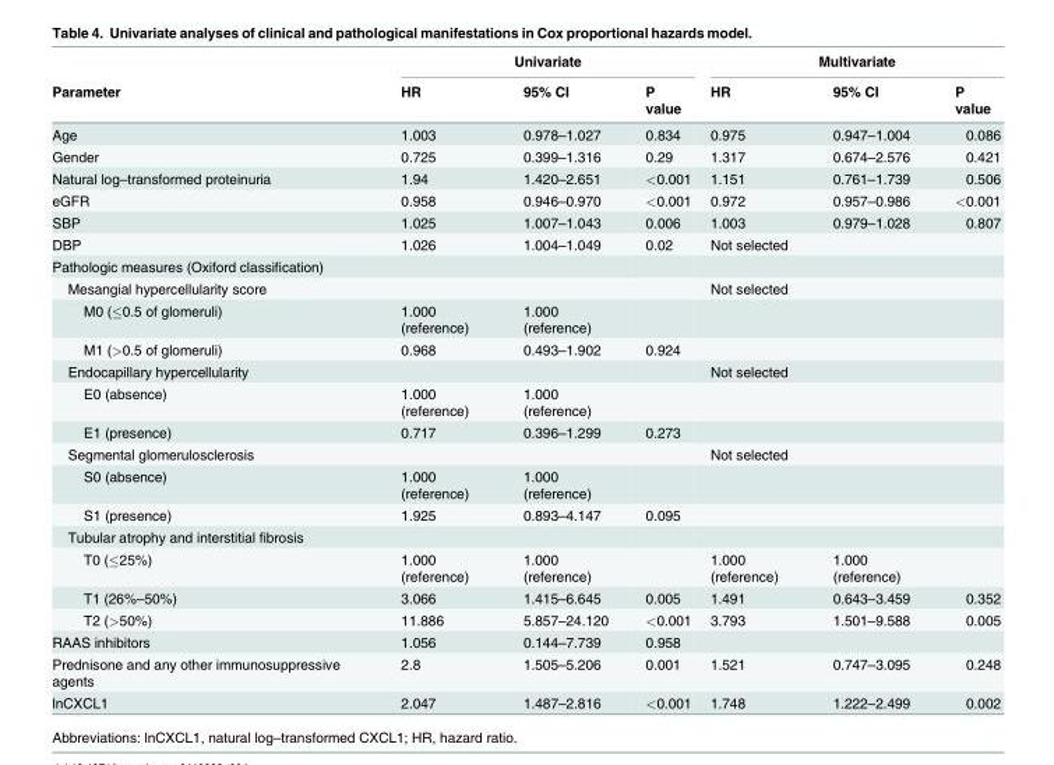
<table><thead><tr><td rowspan="2">Parameter</td><td colspan="3">Univariate</td><td colspan="3">Multivariate</td></tr><tr><td>HR</td><td>95% CI</td><td>P value</td><td>HR</td><td>95% CI</td><td>P value</td></tr></thead><tbody><tr><td>Age</td><td>1.003</td><td>0.978–1.027</td><td>0.834</td><td>0.975</td><td>0.947–1.004</td><td>0.086</td></tr><tr><td>Gender</td><td>0.725</td><td>0.399–1.316</td><td>0.29</td><td>1.317</td><td>0.674–2.576</td><td>0.421</td></tr><tr><td>Natural log–transformed proteinuria</td><td>1.94</td><td>1.420–2.651</td><td>&lt;0.001</td><td>1.151</td><td>0.761–1.739</td><td>0.506</td></tr><tr><td>eGFR</td><td>0.958</td><td>0.946–0.970</td><td>&lt;0.001</td><td>0.972</td><td>0.957–0.986</td><td>&lt;0.001</td></tr><tr><td>SBP</td><td>1.025</td><td>1.007–1.043</td><td>0.006</td><td>1.003</td><td>0.979–1.028</td><td>0.807</td></tr><tr><td>DBP</td><td>1.026</td><td>1.004–1.049</td><td>0.02</td><td>Not selected</td><td></td><td></td></tr><tr><td colspan="7">Pathologic measures (Oxiford classification)</td></tr><tr><td>Mesangial hypercellularity score</td><td></td><td></td><td></td><td>Not selected</td><td></td><td></td></tr><tr><td>M0 (≤0.5 of glomeruli)</td><td>1.000 (reference)</td><td>1.000 (reference)</td><td></td><td></td><td></td><td></td></tr><tr><td>M1 (&gt;0.5 of glomeruli)</td><td>0.968</td><td>0.493–1.902</td><td>0.924</td><td></td><td></td><td></td></tr><tr><td>Endocapillary hypercellularity</td><td></td><td></td><td></td><td>Not selected</td><td></td><td></td></tr><tr><td>E0 (absence)</td><td>1.000 (reference)</td><td>1.000 (reference)</td><td></td><td></td><td></td><td></td></tr><tr><td>E1 (presence)</td><td>0.717</td><td>0.396–1.299</td><td>0.273</td><td></td><td></td><td></td></tr><tr><td>Segmental glomerulosclerosis</td><td></td><td></td><td></td><td>Not selected</td><td></td><td></td></tr><tr><td>S0 (absence)</td><td>1.000 (reference)</td><td>1.000 (reference)</td><td></td><td></td><td></td><td></td></tr><tr><td>S1 (presence)</td><td>1.925</td><td>0.893–4.147</td><td>0.095</td><td></td><td></td><td></td></tr><tr><td colspan="7">Tubular atrophy and interstitial fibrosis</td></tr><tr><td>T0 (≤25%)</td><td>1.000 (reference)</td><td>1.000 (reference)</td><td></td><td>1.000 (reference)</td><td>1.000 (reference)</td><td></td></tr><tr><td>T1 (26%–50%)</td><td>3.066</td><td>1.415–6.645</td><td>0.005</td><td>1.491</td><td>0.643–3.459</td><td>0.352</td></tr><tr><td>T2 (&gt;50%)</td><td>11.886</td><td>5.857–24.120</td><td>&lt;0.001</td><td>3.793</td><td>1.501–9.588</td><td>0.005</td></tr><tr><td>RAAS inhibitors</td><td>1.056</td><td>0.144–7.739</td><td>0.958</td><td></td><td></td><td></td></tr><tr><td>Prednisone and any other immunosuppressive agents</td><td>2.8</td><td>1.505–5.206</td><td>0.001</td><td>1.521</td><td>0.747–3.095</td><td>0.248</td></tr><tr><td>lnCXCL1</td><td>2.047</td><td>1.487–2.816</td><td>&lt;0.001</td><td>1.748</td><td>1.222–2.499</td><td>0.002</td></tr></tbody></table>